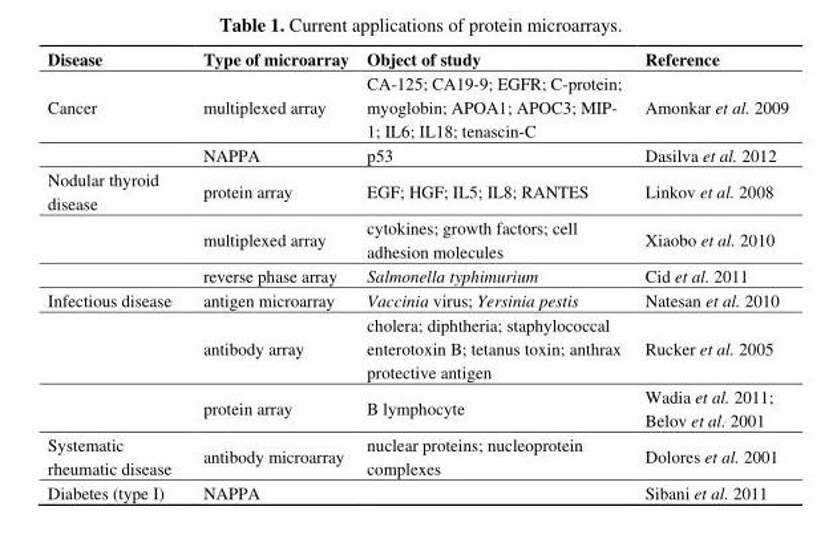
<table><thead><tr><td>Disease</td><td>Type of microarray</td><td>Object of study</td><td>Reference</td></tr></thead><tbody><tr><td rowspan="2">Cancer</td><td>multiplexed array</td><td>CA-125; CA19-9; EGFR; C-protein; myoglobin; APOA1; APOC3; MIP- 1; IL6; IL18; tenascin-C</td><td>Amonkar et al. 2009</td></tr><tr><td>NAPPA</td><td>p53</td><td>Dasilva et al. 2012</td></tr><tr><td rowspan="3">Nodular thyroid disease</td><td>protein array</td><td>EGF; HGF; IL5; IL8; RANTES</td><td>Linkov et al. 2008</td></tr><tr><td>multiplexed array</td><td>cytokines; growth factors; cell adhesion molecules</td><td>Xiaobo et al. 2010</td></tr><tr><td>reverse phase array</td><td>Salmonella typhimurium</td><td>Cid et al. 2011</td></tr><tr><td rowspan="3">Infectious disease</td><td>antigen microarray</td><td>Vaccinia virus; Yersinia pestis</td><td>Natesan et al. 2010</td></tr><tr><td>antibody array</td><td>cholera; diphtheria; staphylococcal enterotoxin B; tetanus toxin; anthrax protective antigen</td><td>Rucker et al. 2005</td></tr><tr><td>protein array</td><td>B lymphocyte</td><td>Wadia et al. 2011; Belov et al. 2001</td></tr><tr><td>Systematic rheumatic disease</td><td>antibody microarray</td><td>nuclear proteins; nucleoprotein complexes</td><td>Dolores et al. 2001</td></tr><tr><td>Diabetes (type I)</td><td>NAPPA</td><td></td><td>Sibani et al. 2011</td></tr></tbody></table>